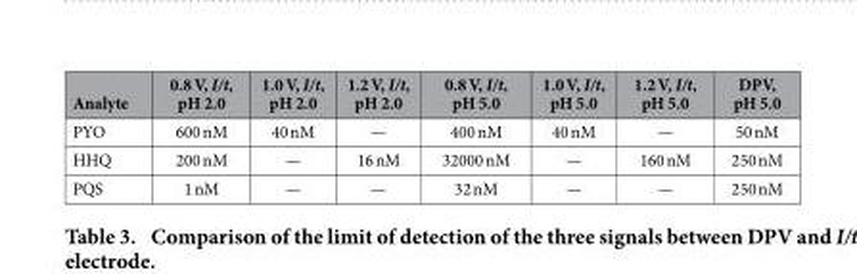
<table><thead><tr><td>Analyte</td><td>0.8 V, I/t, pH 2.0</td><td>1.0 V, I/t, pH 2.0</td><td>1.2 V, I/t, pH 2.0</td><td>0.8 V, I/t, pH 5.0</td><td>1.0 V, I/t, pH 5.0</td><td>1.2 V, I/t, pH 5.0</td><td>DPV, pH 5.0</td></tr></thead><tbody><tr><td>PYO</td><td>600 nM</td><td>40 nM</td><td>—</td><td>400 nM</td><td>40 nM</td><td>—</td><td>50 nM</td></tr><tr><td>HHQ</td><td>200 nM</td><td>—</td><td>16 nM</td><td>32000 nM</td><td>—</td><td>160 nM</td><td>250 nM</td></tr><tr><td>PQS</td><td>1 nM</td><td>—</td><td>—</td><td>32 nM</td><td>—</td><td>—</td><td>250 nM</td></tr></tbody></table>